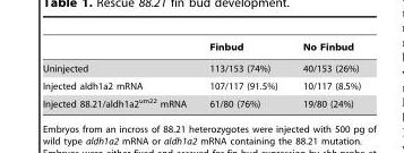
<table><thead><tr><td></td><td>Finbud</td><td>No Finbud</td></tr></thead><tbody><tr><td>Uninjected</td><td>113/153 (74%)</td><td>40/153 (26%)</td></tr><tr><td>Injected aldh1a2 mRNA</td><td>107/117 (91.5%)</td><td>10/117 (8.5%)</td></tr><tr><td>Injected 88.21/aldh1a2<sup>um22</sup> mRNA</td><td>61/80 (76%)</td><td>19/80 (24%)</td></tr></tbody></table>